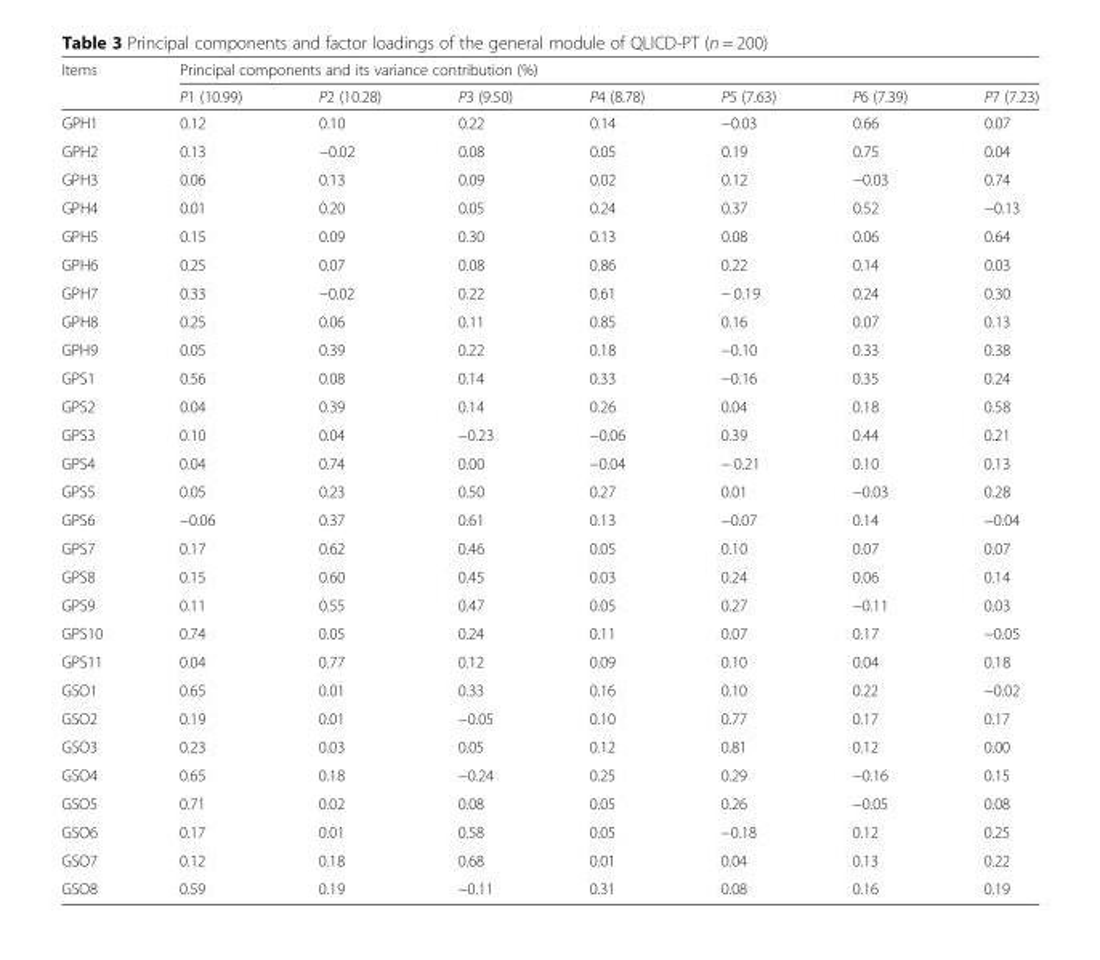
<table><thead><tr><td rowspan="2">Items</td><td colspan="7">Principal components and its variance contribution (%)</td></tr><tr><td>P1 (10.99)</td><td>P2 (10.28)</td><td>P3 (9.50)</td><td>P4 (8.78)</td><td>P5 (7.63)</td><td>P6 (7.39)</td><td>P7 (7.23)</td></tr></thead><tbody><tr><td>GPH1</td><td>0.12</td><td>0.10</td><td>0.22</td><td>0.14</td><td>−0.03</td><td>0.66</td><td>0.07</td></tr><tr><td>GPH2</td><td>0.13</td><td>−0.02</td><td>0.08</td><td>0.05</td><td>0.19</td><td>0.75</td><td>0.04</td></tr><tr><td>GPH3</td><td>0.06</td><td>0.13</td><td>0.09</td><td>0.02</td><td>0.12</td><td>−0.03</td><td>0.74</td></tr><tr><td>GPH4</td><td>0.01</td><td>0.20</td><td>0.05</td><td>0.24</td><td>0.37</td><td>0.52</td><td>−0.13</td></tr><tr><td>GPH5</td><td>0.15</td><td>0.09</td><td>0.30</td><td>0.13</td><td>0.08</td><td>0.06</td><td>0.64</td></tr><tr><td>GPH6</td><td>0.25</td><td>0.07</td><td>0.08</td><td>0.86</td><td>0.22</td><td>0.14</td><td>0.03</td></tr><tr><td>GPH7</td><td>0.33</td><td>−0.02</td><td>0.22</td><td>0.61</td><td>− 0.19</td><td>0.24</td><td>0.30</td></tr><tr><td>GPH8</td><td>0.25</td><td>0.06</td><td>0.11</td><td>0.85</td><td>0.16</td><td>0.07</td><td>0.13</td></tr><tr><td>GPH9</td><td>0.05</td><td>0.39</td><td>0.22</td><td>0.18</td><td>−0.10</td><td>0.33</td><td>0.38</td></tr><tr><td>GPS1</td><td>0.56</td><td>0.08</td><td>0.14</td><td>0.33</td><td>−0.16</td><td>0.35</td><td>0.24</td></tr><tr><td>GPS2</td><td>0.04</td><td>0.39</td><td>0.14</td><td>0.26</td><td>0.04</td><td>0.18</td><td>0.58</td></tr><tr><td>GPS3</td><td>0.10</td><td>0.04</td><td>−0.23</td><td>−0.06</td><td>0.39</td><td>0.44</td><td>0.21</td></tr><tr><td>GPS4</td><td>0.04</td><td>0.74</td><td>0.00</td><td>−0.04</td><td>− 0.21</td><td>0.10</td><td>0.13</td></tr><tr><td>GPS5</td><td>0.05</td><td>0.23</td><td>0.50</td><td>0.27</td><td>0.01</td><td>−0.03</td><td>0.28</td></tr><tr><td>GPS6</td><td>−0.06</td><td>0.37</td><td>0.61</td><td>0.13</td><td>−0.07</td><td>0.14</td><td>−0.04</td></tr><tr><td>GPS7</td><td>0.17</td><td>0.62</td><td>0.46</td><td>0.05</td><td>0.10</td><td>0.07</td><td>0.07</td></tr><tr><td>GPS8</td><td>0.15</td><td>0.60</td><td>0.45</td><td>0.03</td><td>0.24</td><td>0.06</td><td>0.14</td></tr><tr><td>GPS9</td><td>0.11</td><td>0.55</td><td>0.47</td><td>0.05</td><td>0.27</td><td>−0.11</td><td>0.03</td></tr><tr><td>GPS10</td><td>0.74</td><td>0.05</td><td>0.24</td><td>0.11</td><td>0.07</td><td>0.17</td><td>−0.05</td></tr><tr><td>GPS11</td><td>0.04</td><td>0.77</td><td>0.12</td><td>0.09</td><td>0.10</td><td>0.04</td><td>0.18</td></tr><tr><td>GSO1</td><td>0.65</td><td>0.01</td><td>0.33</td><td>0.16</td><td>0.10</td><td>0.22</td><td>−0.02</td></tr><tr><td>GSO2</td><td>0.19</td><td>0.01</td><td>−0.05</td><td>0.10</td><td>0.77</td><td>0.17</td><td>0.17</td></tr><tr><td>GSO3</td><td>0.23</td><td>0.03</td><td>0.05</td><td>0.12</td><td>0.81</td><td>0.12</td><td>0.00</td></tr><tr><td>GSO4</td><td>0.65</td><td>0.18</td><td>−0.24</td><td>0.25</td><td>0.29</td><td>−0.16</td><td>0.15</td></tr><tr><td>GSO5</td><td>0.71</td><td>0.02</td><td>0.08</td><td>0.05</td><td>0.26</td><td>−0.05</td><td>0.08</td></tr><tr><td>GSO6</td><td>0.17</td><td>0.01</td><td>0.58</td><td>0.05</td><td>−0.18</td><td>0.12</td><td>0.25</td></tr><tr><td>GSO7</td><td>0.12</td><td>0.18</td><td>0.68</td><td>0.01</td><td>0.04</td><td>0.13</td><td>0.22</td></tr><tr><td>GSO8</td><td>0.59</td><td>0.19</td><td>−0.11</td><td>0.31</td><td>0.08</td><td>0.16</td><td>0.19</td></tr></tbody></table>